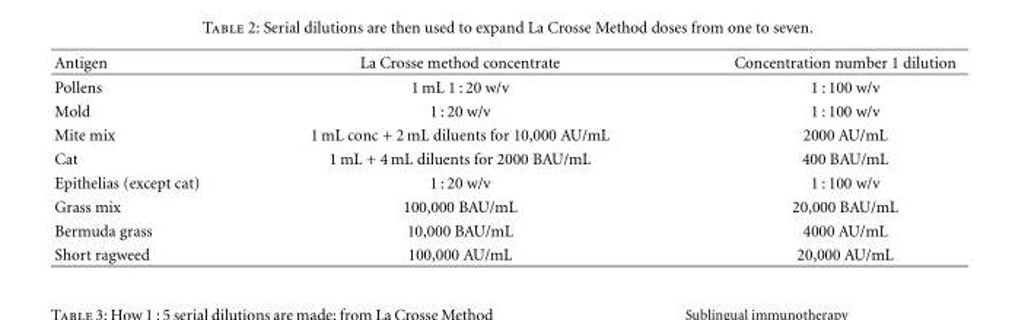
<table><thead><tr><td>Antigen</td><td>La Crosse method concentrate</td><td>Concentration number 1 dilution</td></tr></thead><tbody><tr><td>Pollens</td><td>1 mL 1 : 20 w/v</td><td>1 : 100 w/v</td></tr><tr><td>Mold</td><td>1 : 20 w/v</td><td>1 : 100 w/v</td></tr><tr><td>Mite mix</td><td>1 mL conc + 2 mL diluents for 10,000 AU/mL</td><td>2000 AU/mL</td></tr><tr><td>Cat</td><td>1 mL + 4 mL diluents for 2000 BAU/mL</td><td>400 BAU/mL</td></tr><tr><td>Epithelias (except cat)</td><td>1 : 20 w/v</td><td>1 : 100 w/v</td></tr><tr><td>Grass mix</td><td>100,000 BAU/mL</td><td>20,000 BAU/mL</td></tr><tr><td>Bermuda grass</td><td>10,000 BAU/mL</td><td>4000 AU/mL</td></tr><tr><td>Short ragweed</td><td>100,000 AU/mL</td><td>20,000 AU/mL</td></tr></tbody></table>